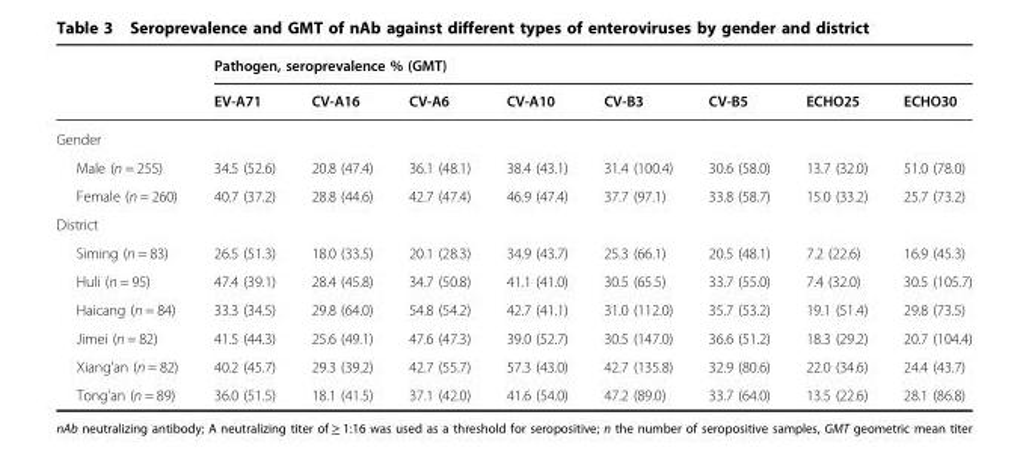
<table><thead><tr><td rowspan="2"></td><td colspan="8">Pathogen, seroprevalence % (GMT)</td></tr><tr><td>EV-A71</td><td>CV-A16</td><td>CV-A6</td><td>CV-A10</td><td>CV-B3</td><td>CV-B5</td><td>ECHO25</td><td>ECHO30</td></tr></thead><tbody><tr><td colspan="9">Gender</td></tr><tr><td>Male (n = 255)</td><td>34.5 (52.6)</td><td>20.8 (47.4)</td><td>36.1 (48.1)</td><td>38.4 (43.1)</td><td>31.4 (100.4)</td><td>30.6 (58.0)</td><td>13.7 (32.0)</td><td>51.0 (78.0)</td></tr><tr><td>Female (n = 260)</td><td>40.7 (37.2)</td><td>28.8 (44.6)</td><td>42.7 (47.4)</td><td>46.9 (47.4)</td><td>37.7 (97.1)</td><td>33.8 (58.7)</td><td>15.0 (33.2)</td><td>25.7 (73.2)</td></tr><tr><td colspan="9">District</td></tr><tr><td>Siming (n = 83)</td><td>26.5 (51.3)</td><td>18.0 (33.5)</td><td>20.1 (28.3)</td><td>34.9 (43.7)</td><td>25.3 (66.1)</td><td>20.5 (48.1)</td><td>7.2 (22.6)</td><td>16.9 (45.3)</td></tr><tr><td>Huli (n = 95)</td><td>47.4 (39.1)</td><td>28.4 (45.8)</td><td>34.7 (50.8)</td><td>41.1 (41.0)</td><td>30.5 (65.5)</td><td>33.7 (55.0)</td><td>7.4 (32.0)</td><td>30.5 (105.7)</td></tr><tr><td>Haicang (n = 84)</td><td>33.3 (34.5)</td><td>29.8 (64.0)</td><td>54.8 (54.2)</td><td>42.7 (41.1)</td><td>31.0 (112.0)</td><td>35.7 (53.2)</td><td>19.1 (51.4)</td><td>29.8 (73.5)</td></tr><tr><td>Jimei (n = 82)</td><td>41.5 (44.3)</td><td>25.6 (49.1)</td><td>47.6 (47.3)</td><td>39.0 (52.7)</td><td>30.5 (147.0)</td><td>36.6 (51.2)</td><td>18.3 (29.2)</td><td>20.7 (104.4)</td></tr><tr><td>Xiang’an (n = 82)</td><td>40.2 (45.7)</td><td>29.3 (39.2)</td><td>42.7 (55.7)</td><td>57.3 (43.0)</td><td>42.7 (135.8)</td><td>32.9 (80.6)</td><td>22.0 (34.6)</td><td>24.4 (43.7)</td></tr><tr><td>Tong’an (n = 89)</td><td>36.0 (51.5)</td><td>18.1 (41.5)</td><td>37.1 (42.0)</td><td>41.6 (54.0)</td><td>47.2 (89.0)</td><td>33.7 (64.0)</td><td>13.5 (22.6)</td><td>28.1 (86.8)</td></tr></tbody></table>